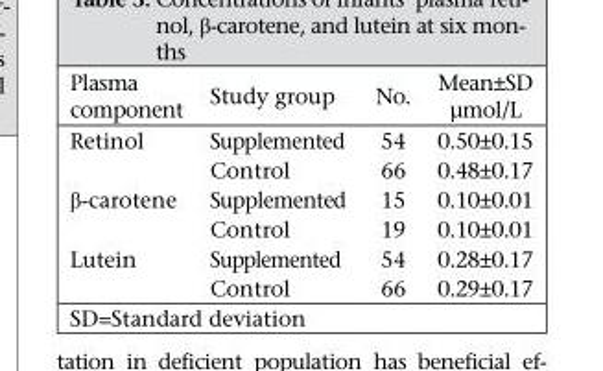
<table><thead><tr><td>Plasma component</td><td>Study group</td><td>No.</td><td>Mean±SD µmol/L</td></tr></thead><tbody><tr><td rowspan="2">Retinol</td><td>Supplemented</td><td>54</td><td>0.50±0.15</td></tr><tr><td>Control</td><td>66</td><td>0.48±0.17</td></tr><tr><td rowspan="2">β-carotene</td><td>Supplemented</td><td>15</td><td>0.10±0.01</td></tr><tr><td>Control</td><td>19</td><td>0.10±0.01</td></tr><tr><td rowspan="2">Lutein</td><td>Supplemented</td><td>54</td><td>0.28±0.17</td></tr><tr><td>Control</td><td>66</td><td>0.29±0.17</td></tr></tbody></table>